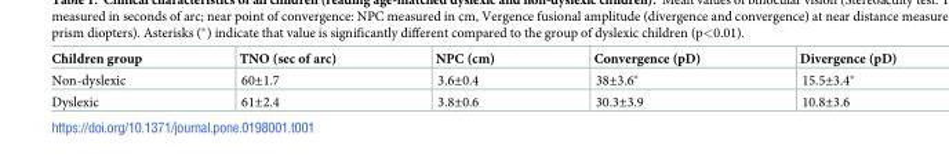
<table><thead><tr><td>Children group</td><td>TNO (sec of arc)</td><td>NPC (cm)</td><td>Convergence (pD)</td><td>Divergence (pD)</td></tr></thead><tbody><tr><td>Non-dyslexic</td><td>60±1.7</td><td>3.6±0.4</td><td>38±3.6*</td><td>15.5±3.4*</td></tr><tr><td>Dyslexic</td><td>61±2.4</td><td>3.8±0.6</td><td>30.3±3.9</td><td>10.8±3.6</td></tr></tbody></table>